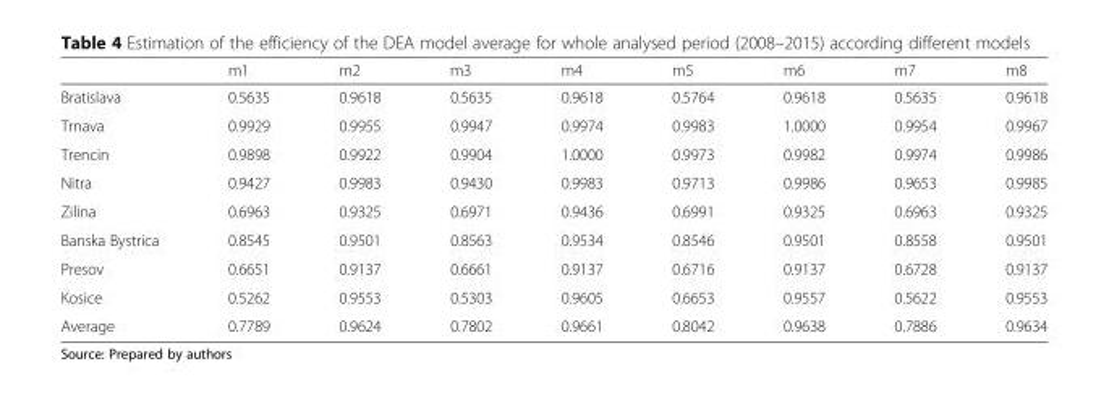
<table><thead><tr><td></td><td>m1</td><td>m2</td><td>m3</td><td>m4</td><td>m5</td><td>m6</td><td>m7</td><td>m8</td></tr></thead><tbody><tr><td>Bratislava</td><td>0.5635</td><td>0.9618</td><td>0.5635</td><td>0.9618</td><td>0.5764</td><td>0.9618</td><td>0.5635</td><td>0.9618</td></tr><tr><td>Trnava</td><td>0.9929</td><td>0.9955</td><td>0.9947</td><td>0.9974</td><td>0.9983</td><td>1.0000</td><td>0.9954</td><td>0.9967</td></tr><tr><td>Trencin</td><td>0.9898</td><td>0.9922</td><td>0.9904</td><td>1.0000</td><td>0.9973</td><td>0.9982</td><td>0.9974</td><td>0.9986</td></tr><tr><td>Nitra</td><td>0.9427</td><td>0.9983</td><td>0.9430</td><td>0.9983</td><td>0.9713</td><td>0.9986</td><td>0.9653</td><td>0.9985</td></tr><tr><td>Zilina</td><td>0.6963</td><td>0.9325</td><td>0.6971</td><td>0.9436</td><td>0.6991</td><td>0.9325</td><td>0.6963</td><td>0.9325</td></tr><tr><td>Banska Bystrica</td><td>0.8545</td><td>0.9501</td><td>0.8563</td><td>0.9534</td><td>0.8546</td><td>0.9501</td><td>0.8558</td><td>0.9501</td></tr><tr><td>Presov</td><td>0.6651</td><td>0.9137</td><td>0.6661</td><td>0.9137</td><td>0.6716</td><td>0.9137</td><td>0.6728</td><td>0.9137</td></tr><tr><td>Kosice</td><td>0.5262</td><td>0.9553</td><td>0.5303</td><td>0.9605</td><td>0.6653</td><td>0.9557</td><td>0.5622</td><td>0.9553</td></tr><tr><td>Average</td><td>0.7789</td><td>0.9624</td><td>0.7802</td><td>0.9661</td><td>0.8042</td><td>0.9638</td><td>0.7886</td><td>0.9634</td></tr></tbody></table>